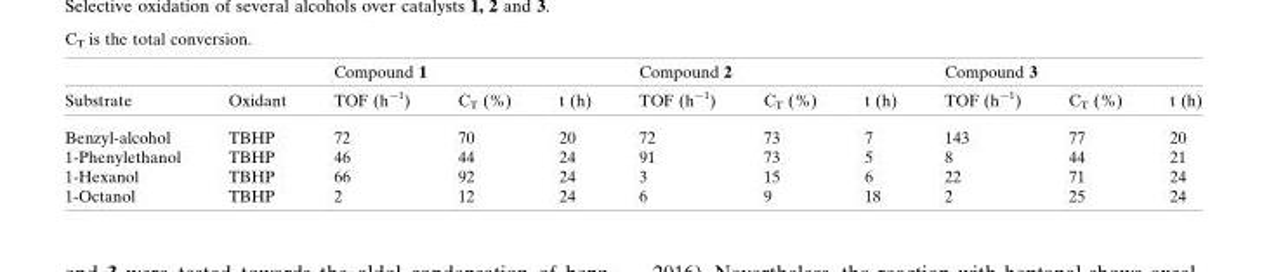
<table><thead><tr><td rowspan="2">Substrate</td><td rowspan="2">Oxidant</td><td colspan="3">Compound 1</td><td colspan="3">Compound 2</td><td colspan="3">Compound 3</td></tr><tr><td>TOF (h<sup>−1</sup>)</td><td>C<sub>T</sub> (%)</td><td>t (h)</td><td>TOF (h<sup>−1</sup>)</td><td>C<sub>T</sub> (%)</td><td>t (h)</td><td>TOF (h<sup>−1</sup>)</td><td>C<sub>T</sub> (%)</td><td>t (h)</td></tr></thead><tbody><tr><td>Benzyl-alcohol</td><td>TBHP</td><td>72</td><td>70</td><td>20</td><td>72</td><td>73</td><td>7</td><td>143</td><td>77</td><td>20</td></tr><tr><td>1-Phenylethanol</td><td>TBHP</td><td>46</td><td>44</td><td>24</td><td>91</td><td>73</td><td>5</td><td>8</td><td>44</td><td>21</td></tr><tr><td>1-Hexanol</td><td>TBHP</td><td>66</td><td>92</td><td>24</td><td>3</td><td>15</td><td>6</td><td>22</td><td>71</td><td>24</td></tr><tr><td>1-Octanol</td><td>TBHP</td><td>2</td><td>12</td><td>24</td><td>6</td><td>9</td><td>18</td><td>2</td><td>25</td><td>24</td></tr></tbody></table>